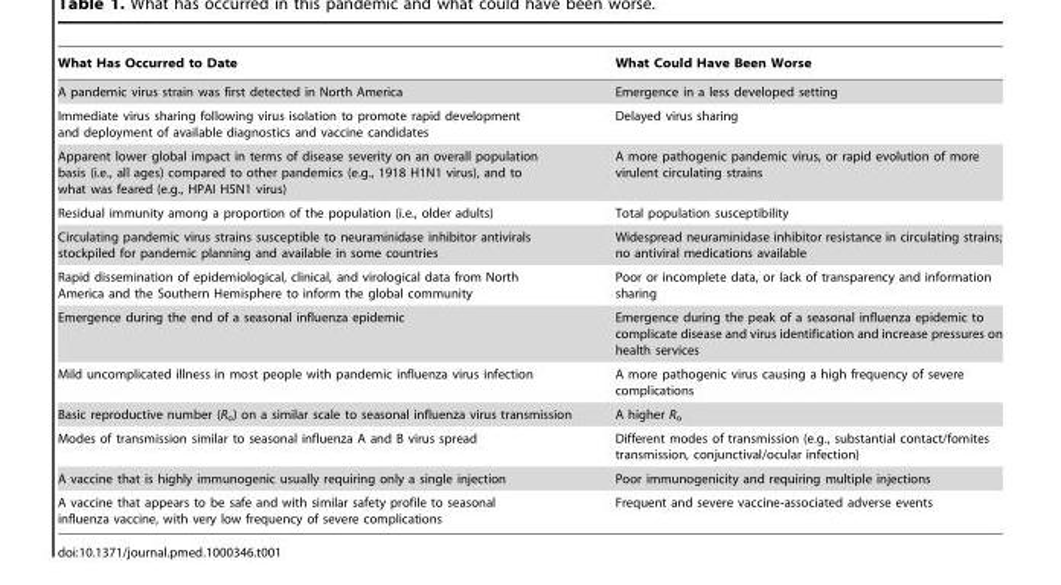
<table><thead><tr><td>What Has Occurred to Date</td><td>What Could Have Been Worse</td></tr></thead><tbody><tr><td>A pandemic virus strain was first detected in North America</td><td>Emergence in a less developed setting</td></tr><tr><td>Immediate virus sharing following virus isolation to promote rapid development and deployment of available diagnostics and vaccine candidates</td><td>Delayed virus sharing</td></tr><tr><td>Apparent lower global impact in terms of disease severity on an overall population basis (i.e., all ages) compared to other pandemics (e.g., 1918 H1N1 virus), and to what was feared (e.g., HPAI H5N1 virus)</td><td>A more pathogenic pandemic virus, or rapid evolution of more virulent circulating strains</td></tr><tr><td>Residual immunity among a proportion of the population (i.e., older adults)</td><td>Total population susceptibility</td></tr><tr><td>Circulating pandemic virus strains susceptible to neuraminidase inhibitor antivirals stockpiled for pandemic planning and available in some countries</td><td>Widespread neuraminidase inhibitor resistance in circulating strains; no antiviral medications available</td></tr><tr><td>Rapid dissemination of epidemiological, clinical, and virological data from North America and the Southern Hemisphere to inform the global community</td><td>Poor or incomplete data, or lack of transparency and information sharing</td></tr><tr><td>Emergence during the end of a seasonal influenza epidemic</td><td>Emergence during the peak of a seasonal influenza epidemic to complicate disease and virus identification and increase pressures on health services</td></tr><tr><td>Mild uncomplicated illness in most people with pandemic influenza virus infection</td><td>A more pathogenic virus causing a high frequency of severe complications</td></tr><tr><td>Basic reproductive number (R<sub>o</sub>) on a similar scale to seasonal influenza virus transmission</td><td>A higher R<sub>o</sub></td></tr><tr><td>Modes of transmission similar to seasonal influenza A and B virus spread</td><td>Different modes of transmission (e.g., substantial contact/fomites transmission, conjunctival/ocular infection)</td></tr><tr><td>A vaccine that is highly immunogenic usually requiring only a single injection</td><td>Poor immunogenicity and requiring multiple injections</td></tr><tr><td>A vaccine that appears to be safe and with similar safety profile to seasonal influenza vaccine, with very low frequency of severe complications</td><td>Frequent and severe vaccine-associated adverse events</td></tr></tbody></table>